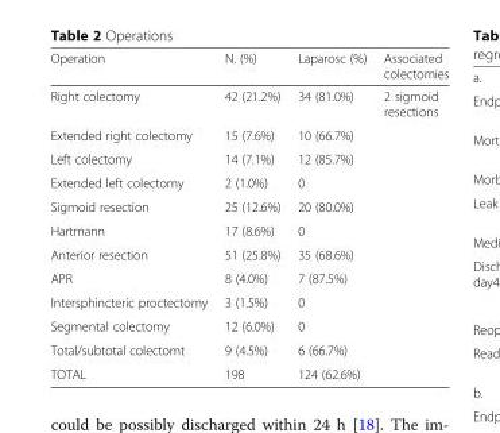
<table><thead><tr><td>Operation</td><td>N. (%)</td><td>Laparosc (%)</td><td>Associated colectomies</td></tr></thead><tbody><tr><td>Right colectomy</td><td>42 (21.2%)</td><td>34 (81.0%)</td><td>2 sigmoid resections</td></tr><tr><td>Extended right colectomy</td><td>15 (7.6%)</td><td>10 (66.7%)</td><td></td></tr><tr><td>Left colectomy</td><td>14 (7.1%)</td><td>12 (85.7%)</td><td></td></tr><tr><td>Extended left colectomy</td><td>2 (1.0%)</td><td>0</td><td></td></tr><tr><td>Sigmoid resection</td><td>25 (12.6%)</td><td>20 (80.0%)</td><td></td></tr><tr><td>Hartmann</td><td>17 (8.6%)</td><td>0</td><td></td></tr><tr><td>Anterior resection</td><td>51 (25.8%)</td><td>35 (68.6%)</td><td></td></tr><tr><td>APR</td><td>8 (4.0%)</td><td>7 (87.5%)</td><td></td></tr><tr><td>Intersphincteric proctectomy</td><td>3 (1.5%)</td><td>0</td><td></td></tr><tr><td>Segmental colectomy</td><td>12 (6.0%)</td><td>0</td><td></td></tr><tr><td>Total/subtotal colectomt</td><td>9 (4.5%)</td><td>6 (66.7%)</td><td></td></tr><tr><td>TOTAL</td><td>198</td><td>124 (62.6%)</td><td></td></tr></tbody></table>